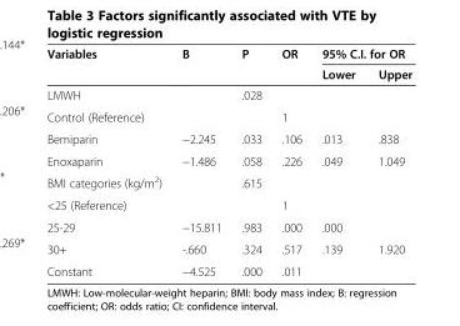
<table><thead><tr><td rowspan="2">Variables</td><td rowspan="2">B</td><td rowspan="2">P</td><td rowspan="2">OR</td><td colspan="2">95% C.I. for OR</td></tr><tr><td>Lower</td><td>Upper</td></tr></thead><tbody><tr><td>LMWH</td><td></td><td>.028</td><td></td><td></td><td></td></tr><tr><td>Control (Reference)</td><td></td><td></td><td>1</td><td></td><td></td></tr><tr><td>Bemiparin</td><td>−2.245</td><td>.033</td><td>.106</td><td>.013</td><td>.838</td></tr><tr><td>Enoxaparin</td><td>−1.486</td><td>.058</td><td>.226</td><td>.049</td><td>1.049</td></tr><tr><td>BMI categories (kg/m<sup>2</sup>)</td><td></td><td>.615</td><td></td><td></td><td></td></tr><tr><td>&lt;25 (Reference)</td><td></td><td></td><td>1</td><td></td><td></td></tr><tr><td>25-29</td><td>−15.811</td><td>.983</td><td>.000</td><td>.000</td><td></td></tr><tr><td>30+</td><td>-.660</td><td>.324</td><td>.517</td><td>.139</td><td>1.920</td></tr><tr><td>Constant</td><td>−4.525</td><td>.000</td><td>.011</td><td></td><td></td></tr></tbody></table>